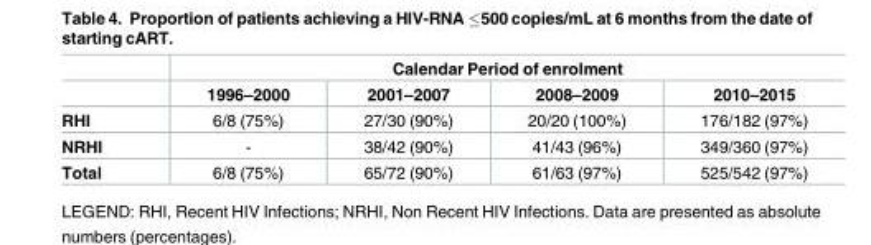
<table><thead><tr><td rowspan="2"></td><td colspan="4">Calendar Period of enrolment</td></tr><tr><td>1996–2000</td><td>2001–2007</td><td>2008–2009</td><td>2010–2015</td></tr></thead><tbody><tr><td>RHI</td><td>6/8 (75%)</td><td>27/30 (90%)</td><td>20/20 (100%)</td><td>176/182 (97%)</td></tr><tr><td>NRHI</td><td>-</td><td>38/42 (90%)</td><td>41/43 (96%)</td><td>349/360 (97%)</td></tr><tr><td>Total</td><td>6/8 (75%)</td><td>65/72 (90%)</td><td>61/63 (97%)</td><td>525/542 (97%)</td></tr></tbody></table>